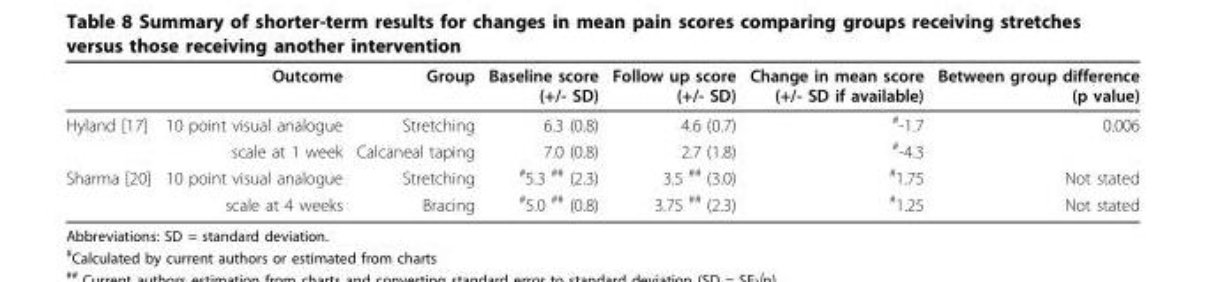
<table><thead><tr><td></td><td>Outcome</td><td>Group</td><td>Baseline score (+/- SD)</td><td>Follow up score (+/- SD)</td><td>Change in mean score (+/- SD if available)</td><td>Between group difference (p value)</td></tr></thead><tbody><tr><td rowspan="2">Hyland [17]</td><td>10 point visual analogue</td><td>Stretching</td><td>6.3 (0.8)</td><td>4.6 (0.7)</td><td><sup>#</sup>-1.7</td><td>0.006</td></tr><tr><td>scale at 1 week</td><td>Calcaneal taping</td><td>7.0 (0.8)</td><td>2.7 (1.8)</td><td><sup>#</sup>-4.3</td><td></td></tr><tr><td rowspan="2">Sharma [20]</td><td>10 point visual analogue</td><td>Stretching</td><td><sup>#</sup>5.3 <sup>##</sup> (2.3)</td><td>3.5 <sup>##</sup> (3.0)</td><td><sup>#</sup>1.75</td><td>Not stated</td></tr><tr><td>scale at 4 weeks</td><td>Bracing</td><td><sup>#</sup>5.0 <sup>##</sup> (0.8)</td><td>3.75 <sup>##</sup> (2.3)</td><td><sup>#</sup>1.25</td><td>Not stated</td></tr></tbody></table>